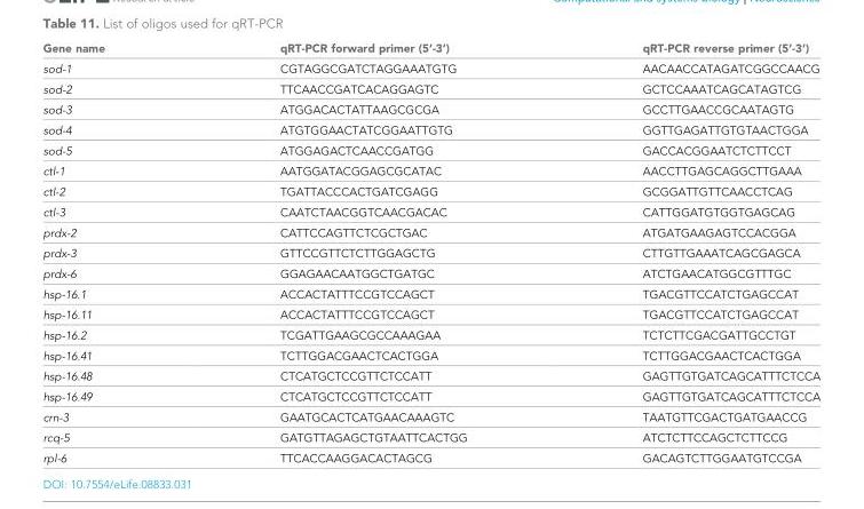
<table><thead><tr><td>Gene name</td><td>qRT-PCR forward primer (5’-3’)</td><td>qRT-PCR reverse primer (5’-3’)</td></tr></thead><tbody><tr><td>sod-1</td><td>CGTAGGCGATCTAGGAAATGTG</td><td>AACAACCATAGATCGGCCAACG</td></tr><tr><td>sod-2</td><td>TTCAACCGATCACAGGAGTC</td><td>GCTCCAAATCAGCATAGTCG</td></tr><tr><td>sod-3</td><td>ATGGACACTATTAAGCGCGA</td><td>GCCTTGAACCGCAATAGTG</td></tr><tr><td>sod-4</td><td>ATGTGGAACTATCGGAATTGTG</td><td>GGTTGAGATTGTGTAACTGGA</td></tr><tr><td>sod-5</td><td>ATGGAGACTCAACCGATGG</td><td>GACCACGGAATCTCTTCCT</td></tr><tr><td>ctl-1</td><td>AATGGATACGGAGCGCATAC</td><td>AACCTTGAGCAGGCTTGAAA</td></tr><tr><td>ctl-2</td><td>TGATTACCCACTGATCGAGG</td><td>GCGGATTGTTCAACCTCAG</td></tr><tr><td>ctl-3</td><td>CAATCTAACGGTCAACGACAC</td><td>CATTGGATGTGGTGAGCAG</td></tr><tr><td>prdx-2</td><td>CATTCCAGTTCTCGCTGAC</td><td>ATGATGAAGAGTCCACGGA</td></tr><tr><td>prdx-3</td><td>GTTCCGTTCTCTTGGAGCTG</td><td>CTTGTTGAAATCAGCGAGCA</td></tr><tr><td>prdx-6</td><td>GGAGAACAATGGCTGATGC</td><td>ATCTGAACATGGCGTTTGC</td></tr><tr><td>hsp-16.1</td><td>ACCACTATTTCCGTCCAGCT</td><td>TGACGTTCCATCTGAGCCAT</td></tr><tr><td>hsp-16.11</td><td>ACCACTATTTCCGTCCAGCT</td><td>TGACGTTCCATCTGAGCCAT</td></tr><tr><td>hsp-16.2</td><td>TCGATTGAAGCGCCAAAGAA</td><td>TCTCTTCGACGATTGCCTGT</td></tr><tr><td>hsp-16.41</td><td>TCTTGGACGAACTCACTGGA</td><td>TCTTGGACGAACTCACTGGA</td></tr><tr><td>hsp-16.48</td><td>CTCATGCTCCGTTCTCCATT</td><td>GAGTTGTGATCAGCATTTCTCCA</td></tr><tr><td>hsp-16.49</td><td>CTCATGCTCCGTTCTCCATT</td><td>GAGTTGTGATCAGCATTTCTCCA</td></tr><tr><td>crn-3</td><td>GAATGCACTCATGAACAAAGTC</td><td>TAATGTTCGACTGATGAACCG</td></tr><tr><td>rcq-5</td><td>GATGTTAGAGCTGTAATTCACTGG</td><td>ATCTCTTCCAGCTCTTCCG</td></tr><tr><td>rpl-6</td><td>TTCACCAAGGACACTAGCG</td><td>GACAGTCTTGGAATGTCCGA</td></tr></tbody></table>